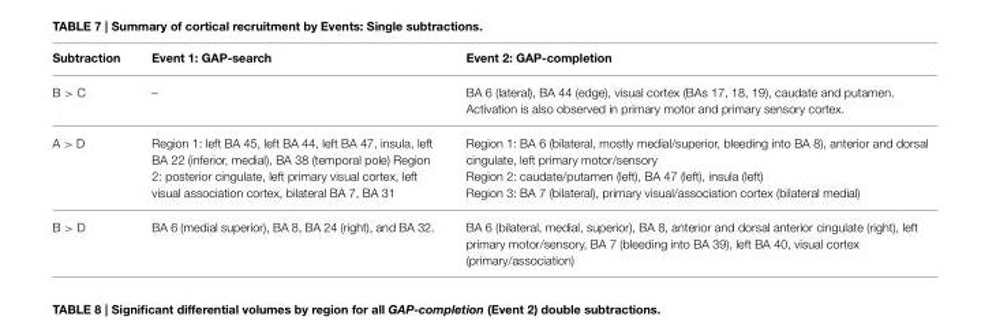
<table><thead><tr><td>Subtraction</td><td>Event 1: GAP-search</td><td>Event 2: GAP-completion</td></tr></thead><tbody><tr><td>B &gt; C</td><td>–</td><td>BA 6 (lateral), BA 44 (edge), visual cortex (BAs 17, 18, 19), caudate and putamen. Activation is also observed in primary motor and primary sensory cortex.</td></tr><tr><td>A &gt; D</td><td>Region 1: left BA 45, left BA 44, left BA 47, insula, left BA 22 (inferior, medial), BA 38 (temporal pole) Region 2: posterior cingulate, left primary visual cortex, left visual association cortex, bilateral BA 7, BA 31</td><td>Region 1: BA 6 (bilateral, mostly medial/superior, bleeding into BA 8), anterior and dorsal cingulate, left primary motor/sensory Region 2: caudate/putamen (left), BA 47 (left), insula (left) Region 3: BA 7 (bilateral), primary visual/association cortex (bilateral medial)</td></tr><tr><td>B &gt; D</td><td>BA 6 (medial superior), BA 8, BA 24 (right), and BA 32.</td><td>BA 6 (bilateral, medial, superior), BA 8, anterior and dorsal anterior cingulate (right), left primary motor/sensory, BA 7 (bleeding into BA 39), left BA 40, visual cortex (primary/association)</td></tr></tbody></table>